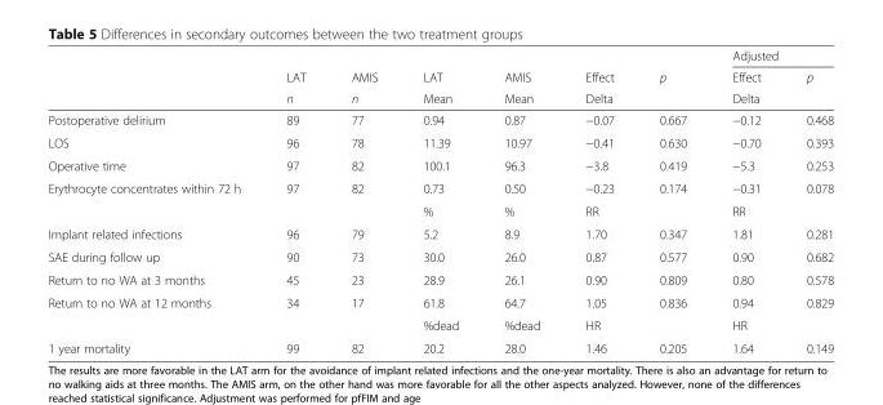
<table><thead><tr><td rowspan="3"></td><td rowspan="3">LAT n</td><td rowspan="3">AMIS n</td><td rowspan="3">LAT Mean</td><td rowspan="3">AMIS Mean</td><td rowspan="3">Effect Delta</td><td rowspan="3">p</td><td colspan="2">Adjusted</td></tr><tr><td rowspan="2">Effect Delta</td><td rowspan="2">p</td></tr><tr></tr></thead><tbody><tr><td>Postoperative delirium</td><td>89</td><td>77</td><td>0.94</td><td>0.87</td><td>−0.07</td><td>0.667</td><td>−0.12</td><td>0.468</td></tr><tr><td>LOS</td><td>96</td><td>78</td><td>11.39</td><td>10.97</td><td>−0.41</td><td>0.630</td><td>−0.70</td><td>0.393</td></tr><tr><td>Operative time</td><td>97</td><td>82</td><td>100.1</td><td>96.3</td><td>−3.8</td><td>0.419</td><td>−5.3</td><td>0.253</td></tr><tr><td rowspan="2">Erythrocyte concentrates within 72 h</td><td>97</td><td>82</td><td>0.73</td><td>0.50</td><td>−0.23</td><td>0.174</td><td>−0.31</td><td>0.078</td></tr><tr><td></td><td></td><td>%</td><td>%</td><td>RR</td><td></td><td>RR</td><td></td></tr><tr><td>Implant related infections</td><td>96</td><td>79</td><td>5.2</td><td>8.9</td><td>1.70</td><td>0.347</td><td>1.81</td><td>0.281</td></tr><tr><td>SAE during follow up</td><td>90</td><td>73</td><td>30.0</td><td>26.0</td><td>0.87</td><td>0.577</td><td>0.90</td><td>0.682</td></tr><tr><td>Return to no WA at 3 months</td><td>45</td><td>23</td><td>28.9</td><td>26.1</td><td>0.90</td><td>0.809</td><td>0.80</td><td>0.578</td></tr><tr><td rowspan="2">Return to no WA at 12 months</td><td>34</td><td>17</td><td>61.8</td><td>64.7</td><td>1.05</td><td>0.836</td><td>0.94</td><td>0.829</td></tr><tr><td></td><td></td><td>%dead</td><td>%dead</td><td>HR</td><td></td><td>HR</td><td></td></tr><tr><td>1 year mortality</td><td>99</td><td>82</td><td>20.2</td><td>28.0</td><td>1.46</td><td>0.205</td><td>1.64</td><td>0.149</td></tr></tbody></table>